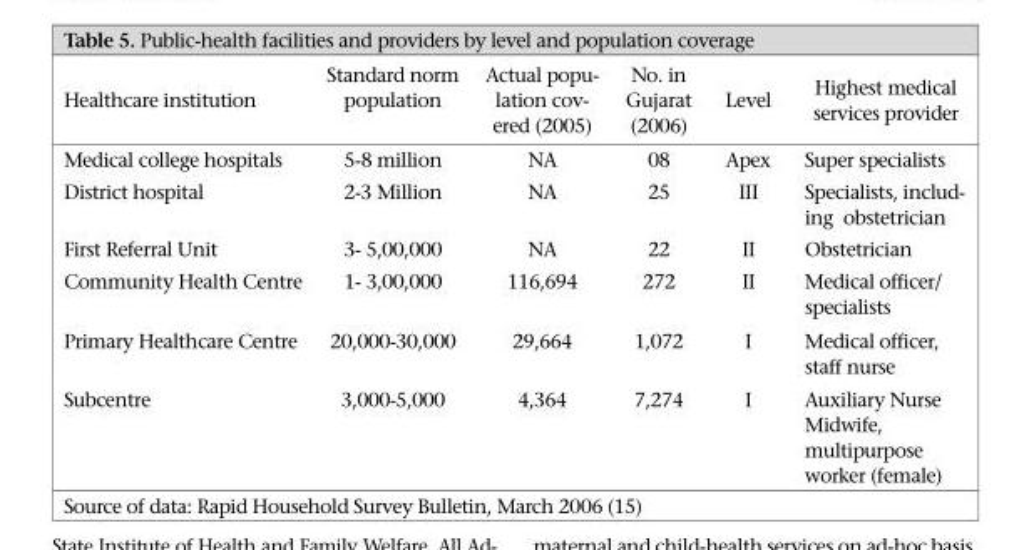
<table><thead><tr><td>Healthcare institution</td><td>Standard norm population</td><td>Actual popu- lation cov- ered (2005)</td><td>No. in Gujarat (2006)</td><td>Level</td><td>Highest medical services provider</td></tr></thead><tbody><tr><td>Medical college hospitals</td><td>5-8 million</td><td>NA</td><td>08</td><td>Apex</td><td>Super specialists</td></tr><tr><td>District hospital</td><td>2-3 Million</td><td>NA</td><td>25</td><td>III</td><td>Specialists, includ- ing obstetrician</td></tr><tr><td>First Referral Unit</td><td>3- 5,00,000</td><td>NA</td><td>22</td><td>II</td><td>Obstetrician</td></tr><tr><td>Community Health Centre</td><td>1- 3,00,000</td><td>116,694</td><td>272</td><td>II</td><td>Medical officer/ specialists</td></tr><tr><td>Primary Healthcare Centre</td><td>20,000-30,000</td><td>29,664</td><td>1,072</td><td>I</td><td>Medical officer, staff nurse</td></tr><tr><td>Subcentre</td><td>3,000-5,000</td><td>4,364</td><td>7,274</td><td>I</td><td>Auxiliary Nurse Midwife, multipurpose worker (female)</td></tr></tbody></table>